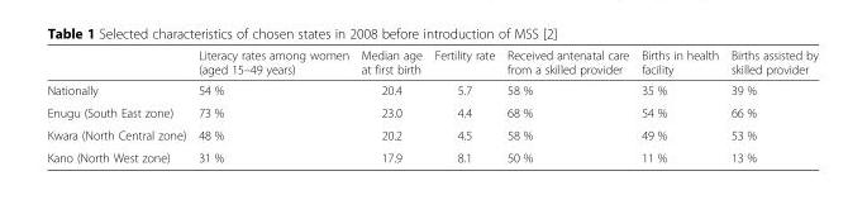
<table><thead><tr><td></td><td>Literacy rates among women (aged 15–49 years)</td><td>Median age at first birth</td><td>Fertility rate</td><td>Received antenatal care from a skilled provider</td><td>Births in health facility</td><td>Births assisted by skilled provider</td></tr></thead><tbody><tr><td>Nationally</td><td>54 %</td><td>20.4</td><td>5.7</td><td>58 %</td><td>35 %</td><td>39 %</td></tr><tr><td>Enugu (South East zone)</td><td>73 %</td><td>23.0</td><td>4.4</td><td>68 %</td><td>54 %</td><td>66 %</td></tr><tr><td>Kwara (North Central zone)</td><td>48 %</td><td>20.2</td><td>4.5</td><td>58 %</td><td>49 %</td><td>53 %</td></tr><tr><td>Kano (North West zone)</td><td>31 %</td><td>17.9</td><td>8.1</td><td>50 %</td><td>11 %</td><td>13 %</td></tr></tbody></table>